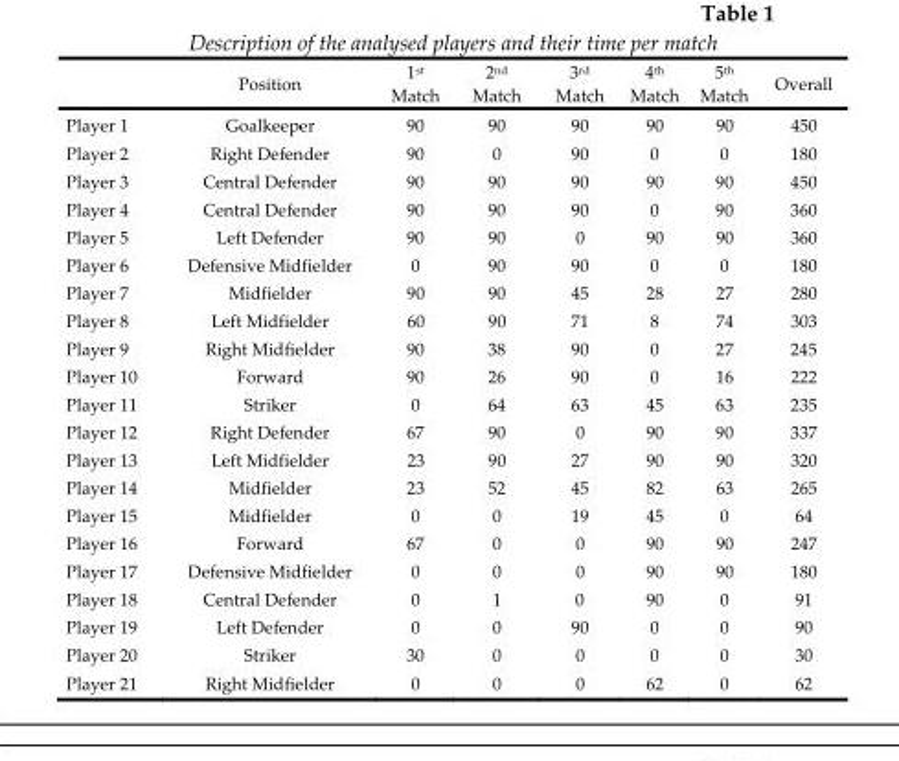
<table><thead><tr><td></td><td>Position</td><td>1<sup>st</sup> Match</td><td>2<sup>nd</sup> Match</td><td>3<sup>rd</sup> Match</td><td>4<sup>th</sup> Match</td><td>5<sup>th</sup> Match</td><td>Overall</td></tr></thead><tbody><tr><td>Player 1</td><td>Goalkeeper</td><td>90</td><td>90</td><td>90</td><td>90</td><td>90</td><td>450</td></tr><tr><td>Player 2</td><td>Right Defender</td><td>90</td><td>0</td><td>90</td><td>0</td><td>0</td><td>180</td></tr><tr><td>Player 3</td><td>Central Defender</td><td>90</td><td>90</td><td>90</td><td>90</td><td>90</td><td>450</td></tr><tr><td>Player 4</td><td>Central Defender</td><td>90</td><td>90</td><td>90</td><td>0</td><td>90</td><td>360</td></tr><tr><td>Player 5</td><td>Left Defender</td><td>90</td><td>90</td><td>0</td><td>90</td><td>90</td><td>360</td></tr><tr><td>Player 6</td><td>Defensive Midfielder</td><td>0</td><td>90</td><td>90</td><td>0</td><td>0</td><td>180</td></tr><tr><td>Player 7</td><td>Midfielder</td><td>90</td><td>90</td><td>45</td><td>28</td><td>27</td><td>280</td></tr><tr><td>Player 8</td><td>Left Midfielder</td><td>60</td><td>90</td><td>71</td><td>8</td><td>74</td><td>303</td></tr><tr><td>Player 9</td><td>Right Midfielder</td><td>90</td><td>38</td><td>90</td><td>0</td><td>27</td><td>245</td></tr><tr><td>Player 10</td><td>Forward</td><td>90</td><td>26</td><td>90</td><td>0</td><td>16</td><td>222</td></tr><tr><td>Player 11</td><td>Striker</td><td>0</td><td>64</td><td>63</td><td>45</td><td>63</td><td>235</td></tr><tr><td>Player 12</td><td>Right Defender</td><td>67</td><td>90</td><td>0</td><td>90</td><td>90</td><td>337</td></tr><tr><td>Player 13</td><td>Left Midfielder</td><td>23</td><td>90</td><td>27</td><td>90</td><td>90</td><td>320</td></tr><tr><td>Player 14</td><td>Midfielder</td><td>23</td><td>52</td><td>45</td><td>82</td><td>63</td><td>265</td></tr><tr><td>Player 15</td><td>Midfielder</td><td>0</td><td>0</td><td>19</td><td>45</td><td>0</td><td>64</td></tr><tr><td>Player 16</td><td>Forward</td><td>67</td><td>0</td><td>0</td><td>90</td><td>90</td><td>247</td></tr><tr><td>Player 17</td><td>Defensive Midfielder</td><td>0</td><td>0</td><td>0</td><td>90</td><td>90</td><td>180</td></tr><tr><td>Player 18</td><td>Central Defender</td><td>0</td><td>1</td><td>0</td><td>90</td><td>0</td><td>91</td></tr><tr><td>Player 19</td><td>Left Defender</td><td>0</td><td>0</td><td>90</td><td>0</td><td>0</td><td>90</td></tr><tr><td>Player 20</td><td>Striker</td><td>30</td><td>0</td><td>0</td><td>0</td><td>0</td><td>30</td></tr><tr><td>Player 21</td><td>Right Midfielder</td><td>0</td><td>0</td><td>0</td><td>62</td><td>0</td><td>62</td></tr></tbody></table>